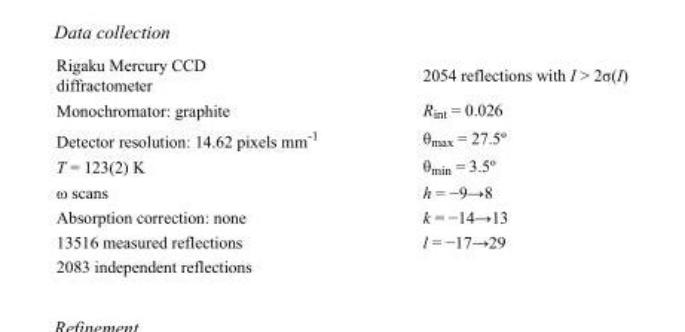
<table><tbody><tr><td>Rigaku Mercury CCD diffractometer</td><td>2054 reflections with I &gt; 2σ(I)</td></tr><tr><td>Monochromator: graphite</td><td>R<sub>int</sub> = 0.026</td></tr><tr><td>Detector resolution: 14.62 pixels mm<sup>-1</sup></td><td>θ<sub>max</sub> = 27.5º</td></tr><tr><td>T = 123(2) K</td><td>θ<sub>min</sub> = 3.5º</td></tr><tr><td>ω scans</td><td>h = −9→8</td></tr><tr><td>Absorption correction: none</td><td>k = −14→13</td></tr><tr><td>13516 measured reflections</td><td>l = −17→29</td></tr><tr><td>2083 independent reflections</td><td></td></tr></tbody></table>